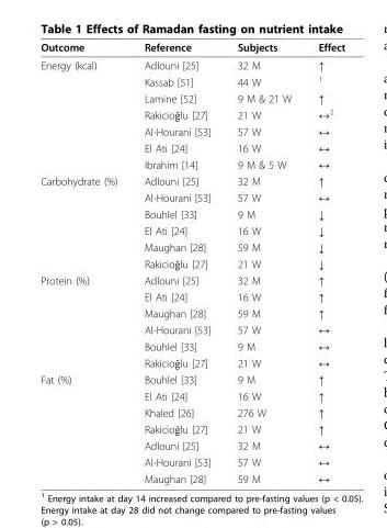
<table><thead><tr><td>Outcome</td><td>Reference</td><td>Subjects</td><td>Effect</td></tr></thead><tbody><tr><td rowspan="7">Energy (kcal)</td><td>Adlouni [25]</td><td>32 M</td><td>↑</td></tr><tr><td>Kassab [51]</td><td>44 W</td><td><sup>1</sup></td></tr><tr><td>Lamine [52]</td><td>9 M &amp; 21 W</td><td>↑</td></tr><tr><td>Rakicioğlu [27]</td><td>21 W</td><td>↔<sup>2</sup></td></tr><tr><td>Al-Hourani [53]</td><td>57 W</td><td>↔</td></tr><tr><td>El Ati [24]</td><td>16 W</td><td>↔</td></tr><tr><td>Ibrahim [14]</td><td>9 M &amp; 5 W</td><td>↔</td></tr><tr><td rowspan="6">Carbohydrate (%)</td><td>Adlouni [25]</td><td>32 M</td><td>↑</td></tr><tr><td>Al-Hourani [53]</td><td>57 W</td><td>↔</td></tr><tr><td>Bouhlel [33]</td><td>9 M</td><td>↓</td></tr><tr><td>El Ati [24]</td><td>16 W</td><td>↓</td></tr><tr><td>Maughan [28]</td><td>59 M</td><td>↓</td></tr><tr><td>Rakicioğlu [27]</td><td>21 W</td><td>↓</td></tr><tr><td rowspan="6">Protein (%)</td><td>Adlouni [25]</td><td>32 M</td><td>↑</td></tr><tr><td>El Ati [24]</td><td>16 W</td><td>↑</td></tr><tr><td>Maughan [28]</td><td>59 M</td><td>↑</td></tr><tr><td>Al-Hourani [53]</td><td>57 W</td><td>↔</td></tr><tr><td>Bouhlel [33]</td><td>9 M</td><td>↔</td></tr><tr><td>Rakicioğlu [27]</td><td>21 W</td><td>↔</td></tr><tr><td rowspan="7">Fat (%)</td><td>Bouhlel [33]</td><td>9 M</td><td>↑</td></tr><tr><td>El Ati [24]</td><td>16 W</td><td>↑</td></tr><tr><td>Khaled [26]</td><td>276 W</td><td>↑</td></tr><tr><td>Rakicioğlu [27]</td><td>21 W</td><td>↑</td></tr><tr><td>Adlouni [25]</td><td>32 M</td><td>↔</td></tr><tr><td>Al-Hourani [53]</td><td>57 W</td><td>↔</td></tr><tr><td>Maughan [28]</td><td>59 M</td><td>↔</td></tr></tbody></table>